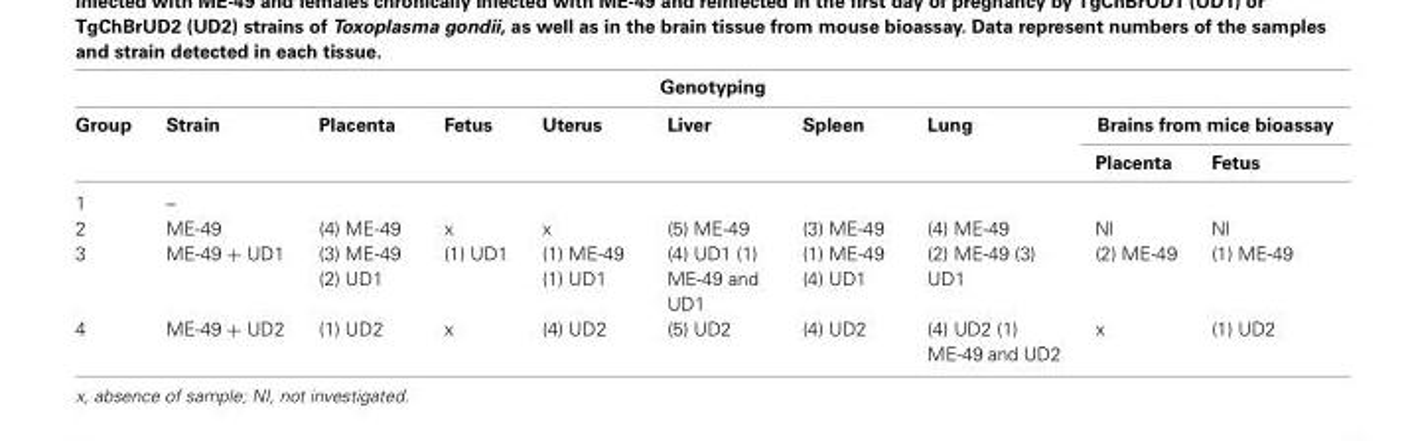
<table><thead><tr><td colspan="10">Genotyping</td></tr><tr><td rowspan="2">Group</td><td rowspan="2">Strain</td><td rowspan="2">Placenta</td><td rowspan="2">Fetus</td><td rowspan="2">Uterus</td><td rowspan="2">Liver</td><td rowspan="2">Spleen</td><td rowspan="2">Lung</td><td colspan="2">Brains from mice bioassay</td></tr><tr><td>Placenta</td><td>Fetus</td></tr></thead><tbody><tr><td>1</td><td>–</td><td></td><td></td><td></td><td></td><td></td><td></td><td></td><td></td></tr><tr><td>2</td><td>ME-49</td><td>(4) ME-49</td><td>x</td><td>x</td><td>(5) ME-49</td><td>(3) ME-49</td><td>(4) ME-49</td><td>NI</td><td>NI</td></tr><tr><td>3</td><td>ME-49 + UD1</td><td>(3) ME-49 (2) UD1</td><td>(1) UD1</td><td>(1) ME-49 (1) UD1</td><td>(4) UD1 (1) ME-49 and UD1</td><td>(1) ME-49 (4) UD1</td><td>(2) ME-49 (3) UD1</td><td>(2) ME-49</td><td>(1) ME-49</td></tr><tr><td>4</td><td>ME-49 + UD2</td><td>(1) UD2</td><td>x</td><td>(4) UD2</td><td>(5) UD2</td><td>(4) UD2</td><td>(4) UD2 (1) ME-49 and UD2</td><td>x</td><td>(1) UD2</td></tr></tbody></table>